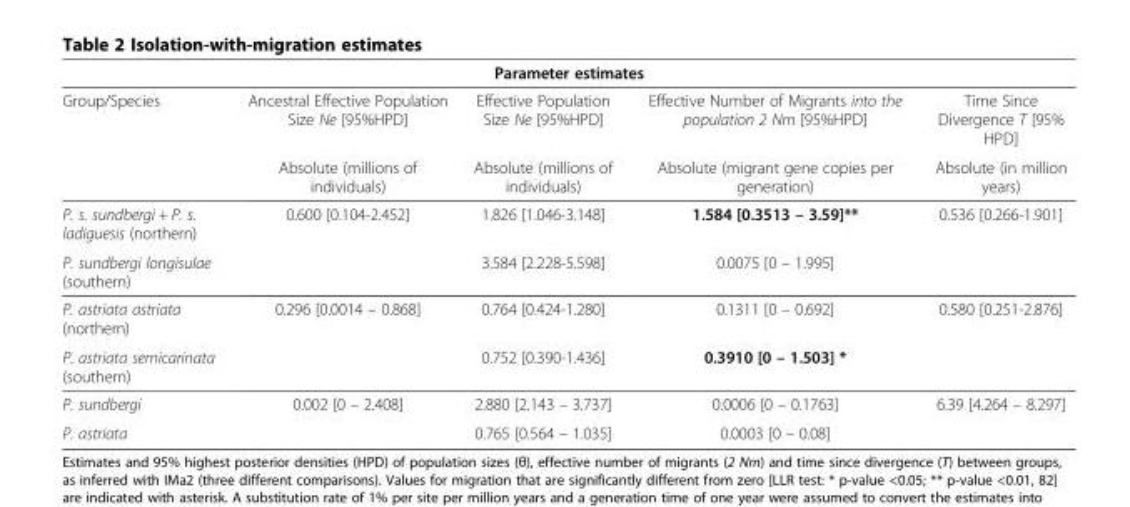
<table><thead><tr><td colspan="5">Parameter estimates</td></tr><tr><td>Group/Species</td><td>Ancestral Effective Population Size Ne [95%HPD]</td><td>Effective Population Size Ne [95%HPD]</td><td>Effective Number of Migrants into the population 2 Nm [95%HPD]</td><td>Time Since Divergence T [95% HPD]</td></tr></thead><tbody><tr><td></td><td>Absolute (millions of individuals)</td><td>Absolute (millions of individuals)</td><td>Absolute (migrant gene copies per generation)</td><td>Absolute (in million years)</td></tr><tr><td>P. s. sundbergi + P. s. ladiguesis (northern)</td><td rowspan="2">0.600 [0.104-2.452]</td><td>1.826 [1.046-3.148]</td><td>1.584 [0.3513 – 3.59]**</td><td rowspan="2">0.536 [0.266-1.901]</td></tr><tr><td>P. sundbergi longisulae (southern)</td><td>3.584 [2.228-5.598]</td><td>0.0075 [0 – 1.995]</td></tr><tr><td>P. astriata astriata (northern)</td><td rowspan="2">0.296 [0.0014 – 0.868]</td><td>0.764 [0.424-1.280]</td><td>0.1311 [0 – 0.692]</td><td rowspan="2">0.580 [0.251-2.876]</td></tr><tr><td>P. astriata semicarinata (southern)</td><td>0.752 [0.390-1.436]</td><td>0.3910 [0 – 1.503] *</td></tr><tr><td>P. sundbergi</td><td rowspan="2">0.002 [0 – 2.408]</td><td>2.880 [2.143 – 3.737]</td><td>0.0006 [0 – 0.1763]</td><td rowspan="2">6.39 [4.264 – 8.297]</td></tr><tr><td>P. astriata</td><td>0.765 [0.564 – 1.035]</td><td>0.0003 [0 – 0.08]</td></tr></tbody></table>